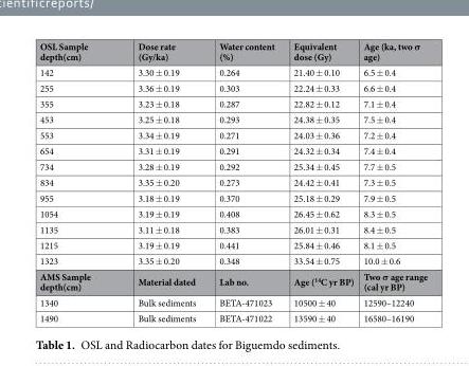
<table><thead><tr><td>OSL Sample depth(cm)</td><td>Dose rate (Gy/ka)</td><td>Water content (%)</td><td>Equivalent dose (Gy)</td><td>Age (ka, two σ age)</td></tr></thead><tbody><tr><td>142</td><td>3.30 ± 0.19</td><td>0.264</td><td>21.40 ± 0.10</td><td>6.5 ± 0.4</td></tr><tr><td>255</td><td>3.36 ± 0.19</td><td>0.303</td><td>22.24 ± 0.33</td><td>6.6 ± 0.4</td></tr><tr><td>355</td><td>3.23 ± 0.18</td><td>0.287</td><td>22.82 ± 0.12</td><td>7.1 ± 0.4</td></tr><tr><td>453</td><td>3.25 ± 0.18</td><td>0.293</td><td>24.38 ± 0.35</td><td>7.5 ± 0.4</td></tr><tr><td>553</td><td>3.34 ± 0.19</td><td>0.271</td><td>24.03 ± 0.36</td><td>7.2 ± 0.4</td></tr><tr><td>654</td><td>3.31 ± 0.19</td><td>0.291</td><td>24.32 ± 0.34</td><td>7.4 ± 0.4</td></tr><tr><td>734</td><td>3.28 ± 0.19</td><td>0.292</td><td>25.34 ± 0.45</td><td>7.7 ± 0.5</td></tr><tr><td>834</td><td>3.35 ± 0.20</td><td>0.273</td><td>24.42 ± 0.41</td><td>7.3 ± 0.5</td></tr><tr><td>955</td><td>3.18 ± 0.19</td><td>0.370</td><td>25.18 ± 0.29</td><td>7.9 ± 0.5</td></tr><tr><td>1054</td><td>3.19 ± 0.19</td><td>0.408</td><td>26.45 ± 0.62</td><td>8.3 ± 0.5</td></tr><tr><td>1135</td><td>3.11 ± 0.18</td><td>0.383</td><td>26.01 ± 0.31</td><td>8.4 ± 0.5</td></tr><tr><td>1215</td><td>3.19 ± 0.19</td><td>0.441</td><td>25.84 ± 0.46</td><td>8.1 ± 0.5</td></tr><tr><td>1323</td><td>3.35 ± 0.20</td><td>0.348</td><td>33.54 ± 0.75</td><td>10.0 ± 0.6</td></tr><tr><td>AMS Sample depth(cm)</td><td>Material dated</td><td>Lab no.</td><td>Age (<sup>14</sup>C yr BP)</td><td>Two σ age range (cal yr BP)</td></tr><tr><td>1340</td><td>Bulk sediments</td><td>BETA-471023</td><td>10500 ± 40</td><td>12590–12240</td></tr><tr><td>1490</td><td>Bulk sediments</td><td>BETA-471022</td><td>13590 ± 40</td><td>16580–16190</td></tr></tbody></table>